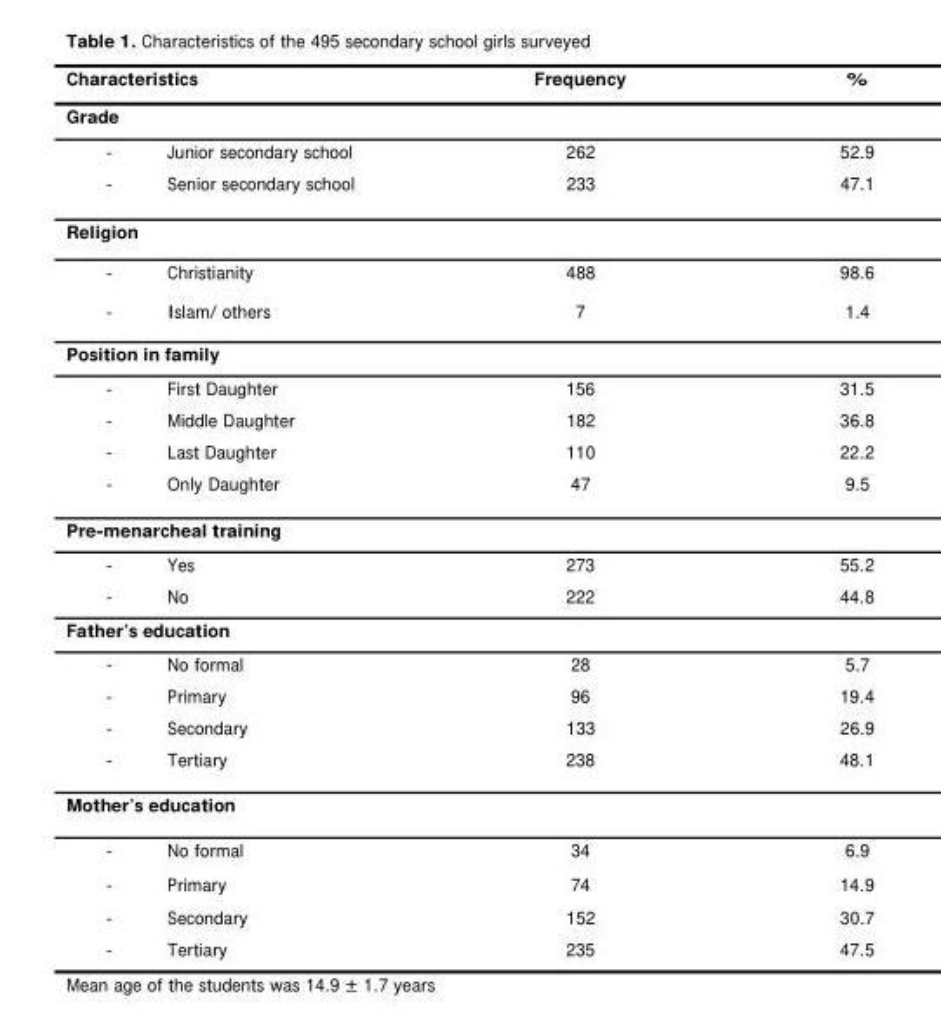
<table><thead><tr><td>Characteristics</td><td>Frequency</td><td>%</td></tr></thead><tbody><tr><td colspan="3">Grade</td></tr><tr><td>- Junior secondary school</td><td>262</td><td>52.9</td></tr><tr><td>- Senior secondary school</td><td>233</td><td>47.1</td></tr><tr><td colspan="3">Religion</td></tr><tr><td>- Christianity</td><td>488</td><td>98.6</td></tr><tr><td>- Islam/ others</td><td>7</td><td>1.4</td></tr><tr><td colspan="3">Position in family</td></tr><tr><td>- First Daughter</td><td>156</td><td>31.5</td></tr><tr><td>- Middle Daughter</td><td>182</td><td>36.8</td></tr><tr><td>- Last Daughter</td><td>110</td><td>22.2</td></tr><tr><td>- Only Daughter</td><td>47</td><td>9.5</td></tr><tr><td colspan="3">Pre-menarcheal training</td></tr><tr><td>- Yes</td><td>273</td><td>55.2</td></tr><tr><td>- No</td><td>222</td><td>44.8</td></tr><tr><td colspan="3">Father’s education</td></tr><tr><td>- No formal</td><td>28</td><td>5.7</td></tr><tr><td>- Primary</td><td>96</td><td>19.4</td></tr><tr><td>- Secondary</td><td>133</td><td>26.9</td></tr><tr><td>- Tertiary</td><td>238</td><td>48.1</td></tr><tr><td colspan="3">Mother’s education</td></tr><tr><td>- No formal</td><td>34</td><td>6.9</td></tr><tr><td>- Primary</td><td>74</td><td>14.9</td></tr><tr><td>- Secondary</td><td>152</td><td>30.7</td></tr><tr><td>- Tertiary</td><td>235</td><td>47.5</td></tr></tbody></table>